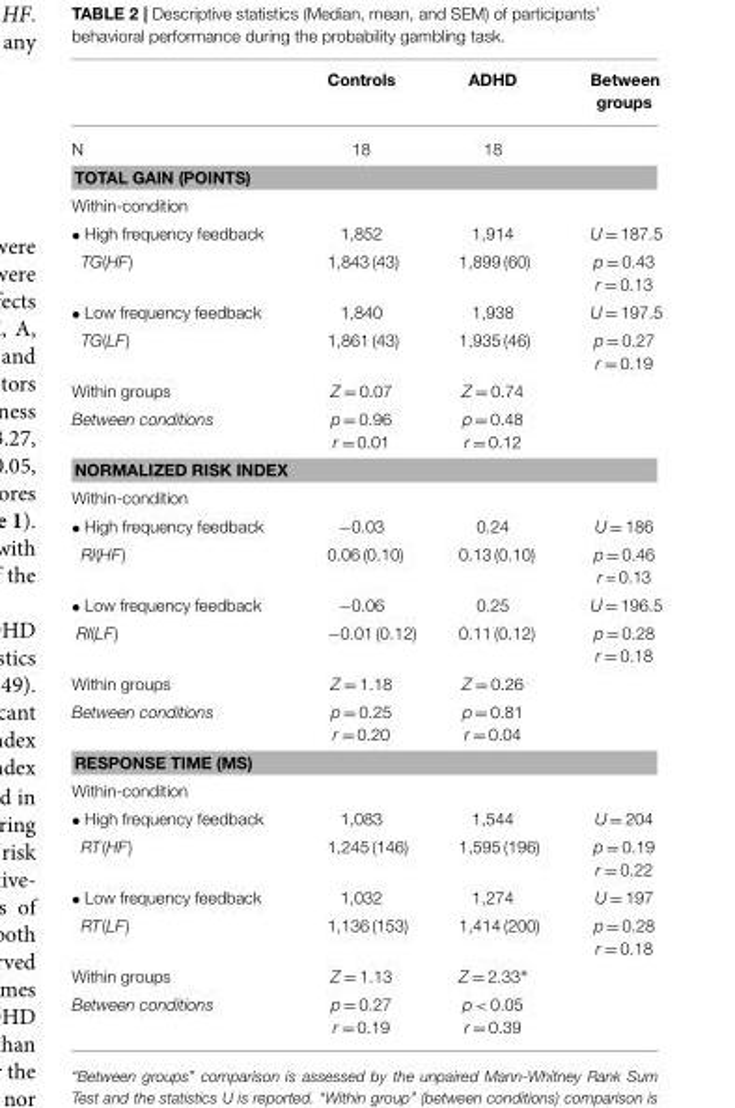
<table><thead><tr><td></td><td>Controls</td><td>ADHD</td><td>Between groups</td></tr></thead><tbody><tr><td>N</td><td>18</td><td>18</td><td></td></tr><tr><td colspan="4">TOTAL GAIN (POINTS)</td></tr><tr><td colspan="4">Within-condition</td></tr><tr><td>• High frequency feedback</td><td>1,852</td><td>1,914</td><td>U = 187.5</td></tr><tr><td>TG(HF)</td><td>1,843 (43)</td><td>1,899 (60)</td><td>p = 0.43 r = 0.13</td></tr><tr><td>• Low frequency feedback</td><td>1,840</td><td>1,938</td><td>U = 197.5</td></tr><tr><td>TG(LF)</td><td>1,861 (43)</td><td>1,935 (46)</td><td>p = 0.27 r = 0.19</td></tr><tr><td>Within groups</td><td>Z = 0.07</td><td>Z = 0.74</td><td></td></tr><tr><td>Between conditions</td><td>p = 0.96 r = 0.01</td><td>p = 0.48 r = 0.12</td><td></td></tr><tr><td colspan="4">NORMALIZED RISK INDEX</td></tr><tr><td colspan="4">Within-condition</td></tr><tr><td>• High frequency feedback</td><td>−0.03</td><td>0.24</td><td>U = 186</td></tr><tr><td>RI(HF)</td><td>0.06 (0.10)</td><td>0.13 (0.10)</td><td>p = 0.46 r = 0.13</td></tr><tr><td>• Low frequency feedback</td><td>−0.06</td><td>0.25</td><td>U = 196.5</td></tr><tr><td>RI(LF)</td><td>−0.01 (0.12)</td><td>0.11 (0.12)</td><td>p = 0.28 r = 0.18</td></tr><tr><td>Within groups</td><td>Z = 1.18</td><td>Z = 0.26</td><td></td></tr><tr><td>Between conditions</td><td>p = 0.25 r = 0.20</td><td>p = 0.81 r = 0.04</td><td></td></tr><tr><td colspan="4">RESPONSE TIME (MS)</td></tr><tr><td colspan="4">Within-condition</td></tr><tr><td>• High frequency feedback</td><td>1,083</td><td>1,544</td><td>U = 204</td></tr><tr><td>RT(HF)</td><td>1,245 (146)</td><td>1,595 (196)</td><td>p = 0.19 r = 0.22</td></tr><tr><td>• Low frequency feedback</td><td>1,032</td><td>1,274</td><td>U = 197</td></tr><tr><td>RT(LF)</td><td>1,136 (153)</td><td>1,414 (200)</td><td>p = 0.28 r = 0.18</td></tr><tr><td>Within groups</td><td>Z = 1.13</td><td>Z = 2.33∗</td><td></td></tr><tr><td>Between conditions</td><td>p = 0.27 r = 0.19</td><td>p &lt; 0.05 r = 0.39</td><td></td></tr></tbody></table>